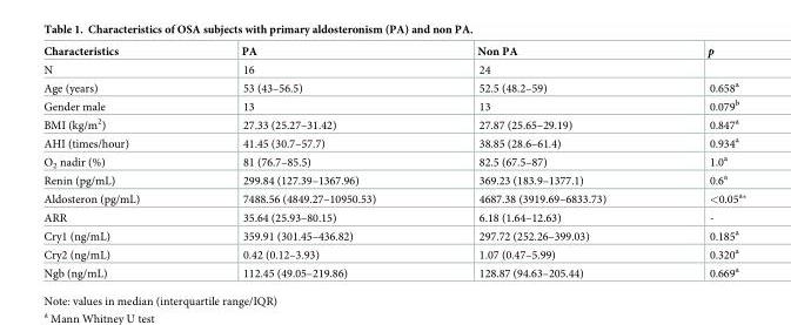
<table><thead><tr><td>Characteristics</td><td>PA</td><td>Non PA</td><td>p</td></tr></thead><tbody><tr><td>N</td><td>16</td><td>24</td><td></td></tr><tr><td>Age (years)</td><td>53 (43–56.5)</td><td>52.5 (48.2–59)</td><td>0.658<sup>a</sup></td></tr><tr><td>Gender male</td><td>13</td><td>13</td><td>0.079<sup>b</sup></td></tr><tr><td>BMI (kg/m<sup>2</sup>)</td><td>27.33 (25.27–31.42)</td><td>27.87 (25.65–29.19)</td><td>0.847<sup>a</sup></td></tr><tr><td>AHI (times/hour)</td><td>41.45 (30.7–57.7)</td><td>38.85 (28.6–61.4)</td><td>0.934<sup>a</sup></td></tr><tr><td>O<sub>2</sub> nadir (%)</td><td>81 (76.7–85.5)</td><td>82.5 (67.5–87)</td><td>1.0<sup>a</sup></td></tr><tr><td>Renin (pg/mL)</td><td>299.84 (127.39–1367.96)</td><td>369.23 (183.9–1377.1)</td><td>0.6<sup>a</sup></td></tr><tr><td>Aldosteron (pg/mL)</td><td>7488.56 (4849.27–10950.53)</td><td>4687.38 (3919.69–6833.73)</td><td>&lt;0.05<sup>a</sup>*</td></tr><tr><td>ARR</td><td>35.64 (25.93–80.15)</td><td>6.18 (1.64–12.63)</td><td>-</td></tr><tr><td>Cry1 (ng/mL)</td><td>359.91 (301.45–436.82)</td><td>297.72 (252.26–399.03)</td><td>0.185<sup>a</sup></td></tr><tr><td>Cry2 (ng/mL)</td><td>0.42 (0.12–3.93)</td><td>1.07 (0.47–5.99)</td><td>0.320<sup>a</sup></td></tr><tr><td>Ngb (ng/mL)</td><td>112.45 (49.05–219.86)</td><td>128.87 (94.63–205.44)</td><td>0.669<sup>a</sup></td></tr></tbody></table>